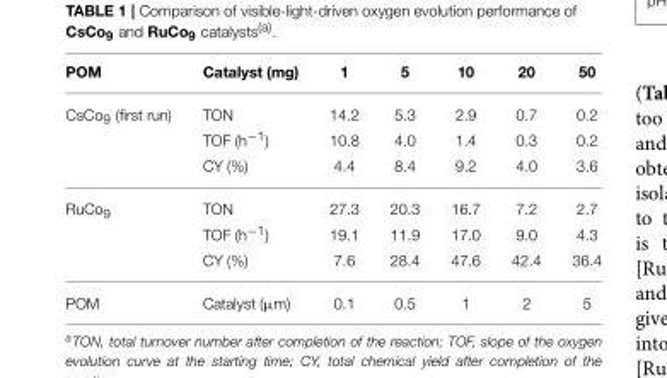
<table><thead><tr><td>POM</td><td>Catalyst (mg)</td><td>1</td><td>5</td><td>10</td><td>20</td><td>50</td></tr></thead><tbody><tr><td rowspan="3">CsCo<sub>9</sub> (first run)</td><td>TON</td><td>14.2</td><td>5.3</td><td>2.9</td><td>0.7</td><td>0.2</td></tr><tr><td>TOF (h<sup>−1</sup>)</td><td>10.8</td><td>4.0</td><td>1.4</td><td>0.3</td><td>0.2</td></tr><tr><td>CY (%)</td><td>4.4</td><td>8.4</td><td>9.2</td><td>4.0</td><td>3.6</td></tr><tr><td rowspan="3">RuCo<sub>9</sub></td><td>TON</td><td>27.3</td><td>20.3</td><td>16.7</td><td>7.2</td><td>2.7</td></tr><tr><td>TOF (h<sup>−1</sup>)</td><td>19.1</td><td>11.9</td><td>17.0</td><td>9.0</td><td>4.3</td></tr><tr><td>CY (%)</td><td>7.6</td><td>28.4</td><td>47.6</td><td>42.4</td><td>36.4</td></tr><tr><td>POM</td><td>Catalyst (µm)</td><td>0.1</td><td>0.5</td><td>1</td><td>2</td><td>5</td></tr></tbody></table>